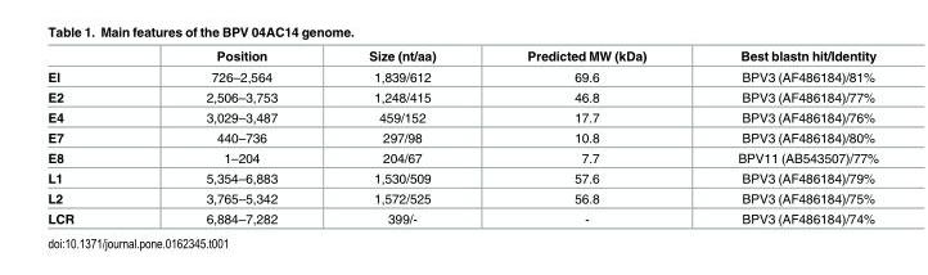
<table><thead><tr><td></td><td>Position</td><td>Size (nt/aa)</td><td>Predicted MW (kDa)</td><td>Best blastn hit/Identity</td></tr></thead><tbody><tr><td>El</td><td>726–2,564</td><td>1,839/612</td><td>69.6</td><td>BPV3 (AF486184)/81%</td></tr><tr><td>E2</td><td>2,506–3,753</td><td>1,248/415</td><td>46.8</td><td>BPV3 (AF486184)/77%</td></tr><tr><td>E4</td><td>3,029–3,487</td><td>459/152</td><td>17.7</td><td>BPV3 (AF486184)/76%</td></tr><tr><td>E7</td><td>440–736</td><td>297/98</td><td>10.8</td><td>BPV3 (AF486184)/80%</td></tr><tr><td>E8</td><td>1–204</td><td>204/67</td><td>7.7</td><td>BPV11 (AB543507)/77%</td></tr><tr><td>L1</td><td>5,354–6,883</td><td>1,530/509</td><td>57.6</td><td>BPV3 (AF486184)/79%</td></tr><tr><td>L2</td><td>3,765–5,342</td><td>1,572/525</td><td>56.8</td><td>BPV3 (AF486184)/75%</td></tr><tr><td>LCR</td><td>6,884–7,282</td><td>399/-</td><td>-</td><td>BPV3 (AF486184)/74%</td></tr></tbody></table>